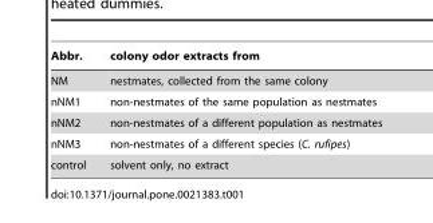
<table><thead><tr><td>Abbr.</td><td>colony odor extracts from</td></tr></thead><tbody><tr><td>NM</td><td>nestmates, collected from the same colony</td></tr><tr><td>nNM1</td><td>non-nestmates of the same population as nestmates</td></tr><tr><td>nNM2</td><td>non-nestmates of a different population as nestmates</td></tr><tr><td>nNM3</td><td>non-nestmates of a different species (C. rufipes)</td></tr><tr><td>control</td><td>solvent only, no extract</td></tr></tbody></table>